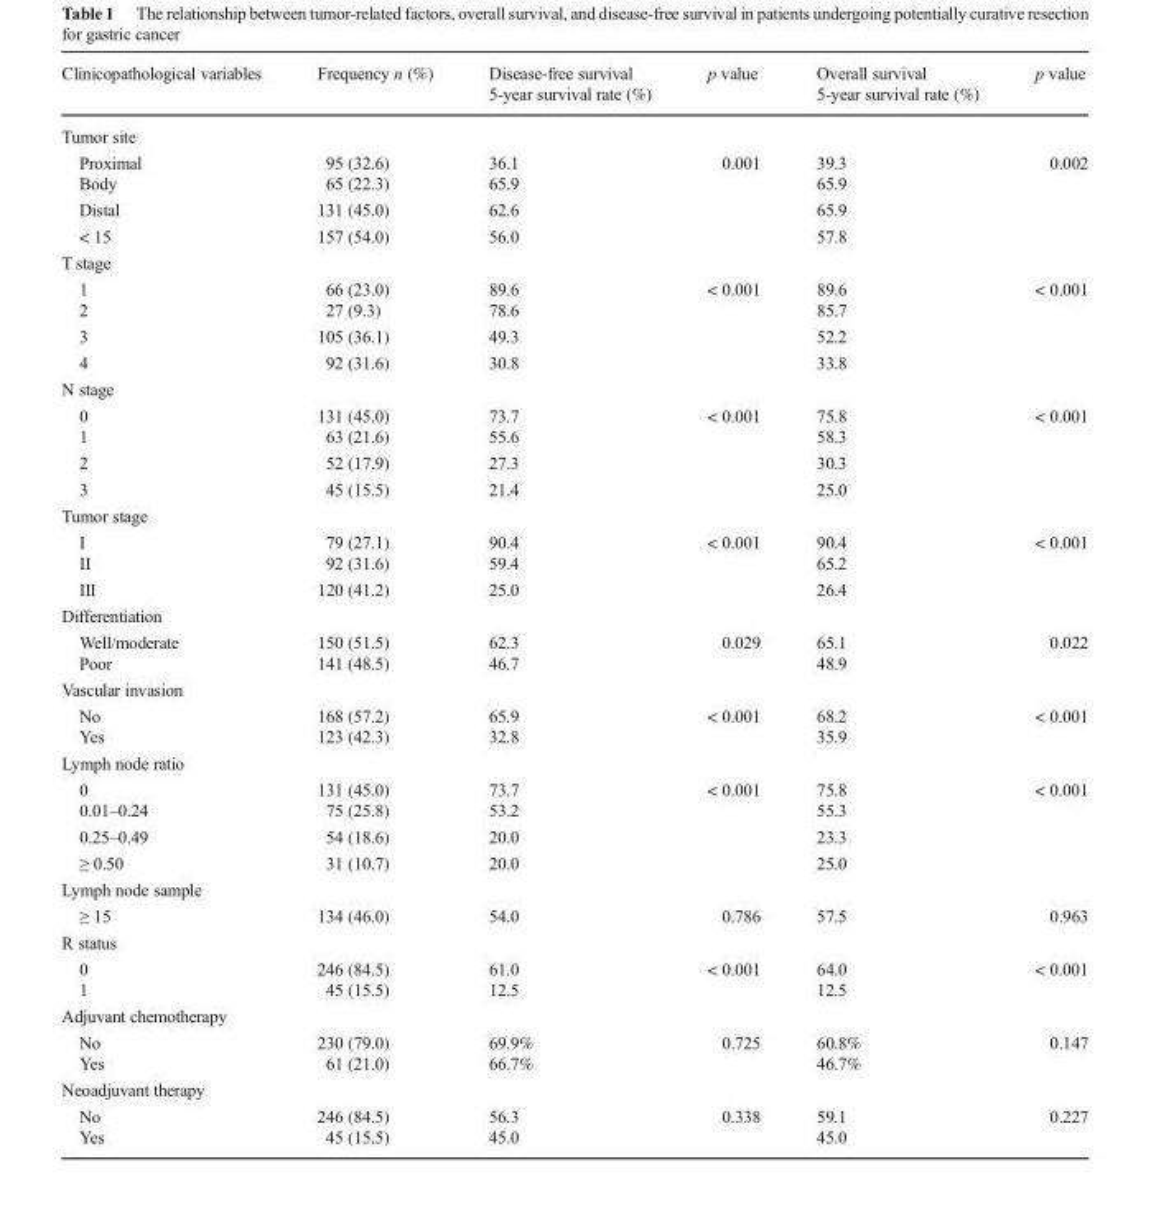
<table><thead><tr><td rowspan="2">Clinicopathological variables</td><td rowspan="2">Frequency n (%)</td><td rowspan="2">Disease-free survival 5-year survival rate (%)</td><td rowspan="2">p value</td><td rowspan="2">Overall survival 5-year survival rate (%)</td><td rowspan="2">p value</td></tr><tr></tr></thead><tbody><tr><td colspan="6">Tumor site</td></tr><tr><td>Proximal</td><td>95 (32.6)</td><td>36.1</td><td rowspan="4">0.001</td><td>39.3</td><td rowspan="4">0.002</td></tr><tr><td>Body</td><td>65 (22.3)</td><td>65.9</td><td>65.9</td></tr><tr><td>Distal</td><td>131 (45.0)</td><td>62.6</td><td>65.9</td></tr><tr><td>&lt; 15</td><td>157 (54.0)</td><td>56.0</td><td>57.8</td></tr><tr><td colspan="6">T stage</td></tr><tr><td>1</td><td>66 (23.0)</td><td>89.6</td><td rowspan="4">&lt; 0.001</td><td>89.6</td><td rowspan="4">&lt; 0.001</td></tr><tr><td>2</td><td>27 (9.3)</td><td>78.6</td><td>85.7</td></tr><tr><td>3</td><td>105 (36.1)</td><td>49.3</td><td>52.2</td></tr><tr><td>4</td><td>92 (31.6)</td><td>30.8</td><td>33.8</td></tr><tr><td colspan="6">N stage</td></tr><tr><td>0</td><td>131 (45.0)</td><td>73.7</td><td rowspan="4">&lt; 0.001</td><td>75.8</td><td rowspan="4">&lt; 0.001</td></tr><tr><td>1</td><td>63 (21.6)</td><td>55.6</td><td>58.3</td></tr><tr><td>2</td><td>52 (17.9)</td><td>27.3</td><td>30.3</td></tr><tr><td>3</td><td>45 (15.5)</td><td>21.4</td><td>25.0</td></tr><tr><td colspan="6">Tumor stage</td></tr><tr><td>I</td><td>79 (27.1)</td><td>90.4</td><td rowspan="3">&lt; 0.001</td><td>90.4</td><td rowspan="3">&lt; 0.001</td></tr><tr><td>II</td><td>92 (31.6)</td><td>59.4</td><td>65.2</td></tr><tr><td>III</td><td>120 (41.2)</td><td>25.0</td><td>26.4</td></tr><tr><td colspan="6">Differentiation</td></tr><tr><td>Well/moderate</td><td>150 (51.5)</td><td>62.3</td><td rowspan="2">0.029</td><td>65.1</td><td rowspan="2">0.022</td></tr><tr><td>Poor</td><td>141 (48.5)</td><td>46.7</td><td>48.9</td></tr><tr><td colspan="6">Vascular invasion</td></tr><tr><td>No</td><td>168 (57.2)</td><td>65.9</td><td rowspan="2">&lt; 0.001</td><td>68.2</td><td rowspan="2">&lt; 0.001</td></tr><tr><td>Yes</td><td>123 (42.3)</td><td>32.8</td><td>35.9</td></tr><tr><td colspan="6">Lymph node ratio</td></tr><tr><td>0</td><td>131 (45.0)</td><td>73.7</td><td rowspan="4">&lt; 0.001</td><td>75.8</td><td rowspan="4">&lt; 0.001</td></tr><tr><td>0.01–0.24</td><td>75 (25.8)</td><td>53.2</td><td>55.3</td></tr><tr><td>0.25–0.49</td><td>54 (18.6)</td><td>20.0</td><td>23.3</td></tr><tr><td>≥ 0.50</td><td>31 (10.7)</td><td>20.0</td><td>25.0</td></tr><tr><td colspan="6">Lymph node sample</td></tr><tr><td>≥ 15</td><td>134 (46.0)</td><td>54.0</td><td>0.786</td><td>57.5</td><td>0.963</td></tr><tr><td colspan="6">R status</td></tr><tr><td>0</td><td>246 (84.5)</td><td>61.0</td><td rowspan="2">&lt; 0.001</td><td>64.0</td><td rowspan="2">&lt; 0.001</td></tr><tr><td>1</td><td>45 (15.5)</td><td>12.5</td><td>12.5</td></tr><tr><td colspan="6">Adjuvant chemotherapy</td></tr><tr><td>No</td><td>230 (79.0)</td><td>69.9%</td><td rowspan="2">0.725</td><td>60.8%</td><td rowspan="2">0.147</td></tr><tr><td>Yes</td><td>61 (21.0)</td><td>66.7%</td><td>46.7%</td></tr><tr><td colspan="6">Neoadjuvant therapy</td></tr><tr><td>No</td><td>246 (84.5)</td><td>56.3</td><td rowspan="2">0.338</td><td>59.1</td><td rowspan="2">0.227</td></tr><tr><td>Yes</td><td>45 (15.5)</td><td>45.0</td><td>45.0</td></tr></tbody></table>